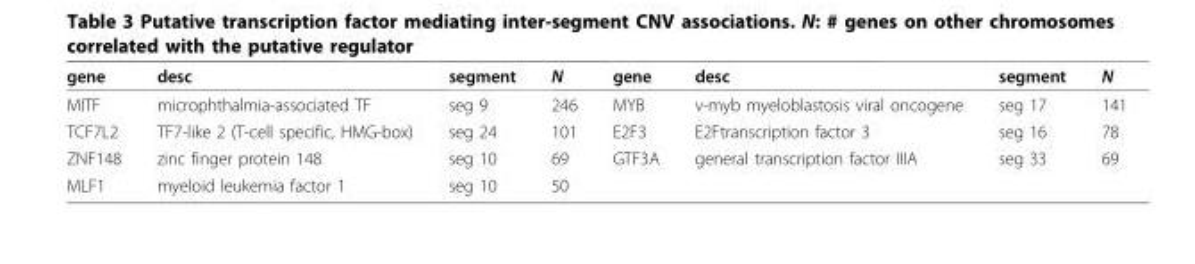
<table><thead><tr><td>gene</td><td>desc</td><td>segment</td><td>N</td><td>gene</td><td>desc</td><td>segment</td><td>N</td></tr></thead><tbody><tr><td>MITF</td><td>microphthalmia-associated TF</td><td>seg 9</td><td>246</td><td>MYB</td><td>v-myb myeloblastosis viral oncogene</td><td>seg 17</td><td>141</td></tr><tr><td>TCF7L2</td><td>TF7-like 2 (T-cell specific, HMG-box)</td><td>seg 24</td><td>101</td><td>E2F3</td><td>E2Ftranscription factor 3</td><td>seg 16</td><td>78</td></tr><tr><td>ZNF148</td><td>zinc finger protein 148</td><td>seg 10</td><td>69</td><td>GTF3A</td><td>general transcription factor IIIA</td><td>seg 33</td><td>69</td></tr><tr><td>MLF1</td><td>myeloid leukemia factor 1</td><td>seg 10</td><td>50</td><td></td><td></td><td></td><td></td></tr></tbody></table>